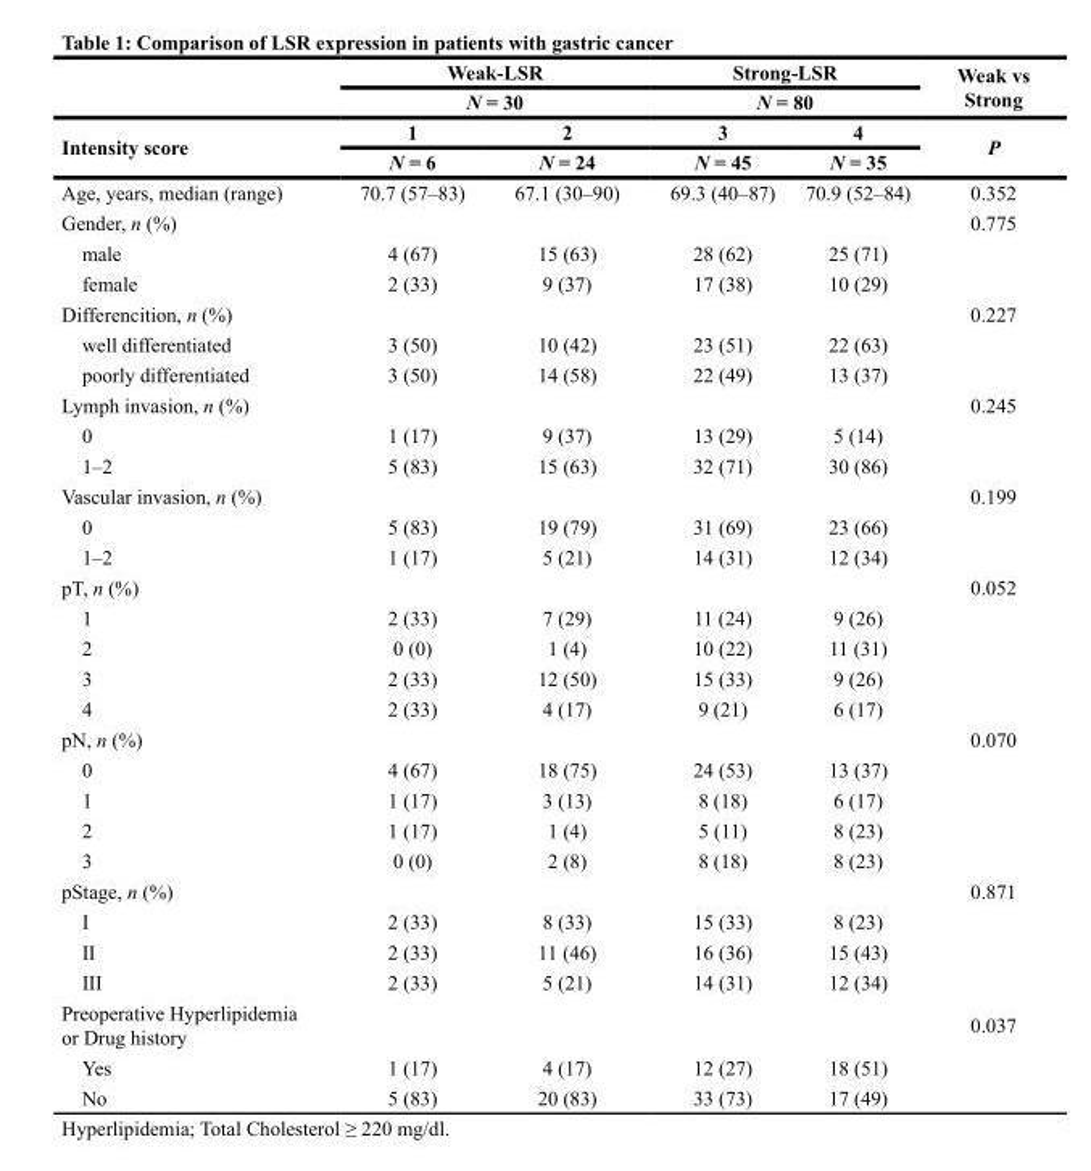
<table><thead><tr><td rowspan="4">Intensity score</td><td rowspan="2" colspan="2">Weak-LSR N = 30</td><td rowspan="2" colspan="2">Strong-LSR N = 80</td><td rowspan="4">Weak vs Strong P</td></tr><tr></tr><tr><td rowspan="2">1 N = 6</td><td rowspan="2">2 N = 24</td><td rowspan="2">3 N = 45</td><td rowspan="2">4 N = 35</td></tr><tr></tr></thead><tbody><tr><td>Age, years, median (range)</td><td>70.7 (57–83)</td><td>67.1 (30–90)</td><td>69.3 (40–87)</td><td>70.9 (52–84)</td><td>0.352</td></tr><tr><td>Gender, n (%)</td><td></td><td></td><td></td><td></td><td>0.775</td></tr><tr><td>male</td><td>4 (67)</td><td>15 (63)</td><td>28 (62)</td><td>25 (71)</td><td></td></tr><tr><td>female</td><td>2 (33)</td><td>9 (37)</td><td>17 (38)</td><td>10 (29)</td><td></td></tr><tr><td>Differencition, n (%)</td><td></td><td></td><td></td><td></td><td>0.227</td></tr><tr><td>well differentiated</td><td>3 (50)</td><td>10 (42)</td><td>23 (51)</td><td>22 (63)</td><td></td></tr><tr><td>poorly differentiated</td><td>3 (50)</td><td>14 (58)</td><td>22 (49)</td><td>13 (37)</td><td></td></tr><tr><td>Lymph invasion, n (%)</td><td></td><td></td><td></td><td></td><td>0.245</td></tr><tr><td>0</td><td>1 (17)</td><td>9 (37)</td><td>13 (29)</td><td>5 (14)</td><td></td></tr><tr><td>1–2</td><td>5 (83)</td><td>15 (63)</td><td>32 (71)</td><td>30 (86)</td><td></td></tr><tr><td>Vascular invasion, n (%)</td><td></td><td></td><td></td><td></td><td>0.199</td></tr><tr><td>0</td><td>5 (83)</td><td>19 (79)</td><td>31 (69)</td><td>23 (66)</td><td></td></tr><tr><td>1–2</td><td>1 (17)</td><td>5 (21)</td><td>14 (31)</td><td>12 (34)</td><td></td></tr><tr><td>pT, n (%)</td><td></td><td></td><td></td><td></td><td>0.052</td></tr><tr><td>1</td><td>2 (33)</td><td>7 (29)</td><td>11 (24)</td><td>9 (26)</td><td></td></tr><tr><td>2</td><td>0 (0)</td><td>1 (4)</td><td>10 (22)</td><td>11 (31)</td><td></td></tr><tr><td>3</td><td>2 (33)</td><td>12 (50)</td><td>15 (33)</td><td>9 (26)</td><td></td></tr><tr><td>4</td><td>2 (33)</td><td>4 (17)</td><td>9 (21)</td><td>6 (17)</td><td></td></tr><tr><td>pN, n (%)</td><td></td><td></td><td></td><td></td><td>0.070</td></tr><tr><td>0</td><td>4 (67)</td><td>18 (75)</td><td>24 (53)</td><td>13 (37)</td><td></td></tr><tr><td>1</td><td>1 (17)</td><td>3 (13)</td><td>8 (18)</td><td>6 (17)</td><td></td></tr><tr><td>2</td><td>1 (17)</td><td>1 (4)</td><td>5 (11)</td><td>8 (23)</td><td></td></tr><tr><td>3</td><td>0 (0)</td><td>2 (8)</td><td>8 (18)</td><td>8 (23)</td><td></td></tr><tr><td>pStage, n (%)</td><td></td><td></td><td></td><td></td><td>0.871</td></tr><tr><td>I</td><td>2 (33)</td><td>8 (33)</td><td>15 (33)</td><td>8 (23)</td><td></td></tr><tr><td>II</td><td>2 (33)</td><td>11 (46)</td><td>16 (36)</td><td>15 (43)</td><td></td></tr><tr><td>III</td><td>2 (33)</td><td>5 (21)</td><td>14 (31)</td><td>12 (34)</td><td></td></tr><tr><td>Preoperative Hyperlipidemia or Drug history</td><td></td><td></td><td></td><td></td><td>0.037</td></tr><tr><td>Yes</td><td>1 (17)</td><td>4 (17)</td><td>12 (27)</td><td>18 (51)</td><td></td></tr><tr><td>No</td><td>5 (83)</td><td>20 (83)</td><td>33 (73)</td><td>17 (49)</td><td></td></tr></tbody></table>